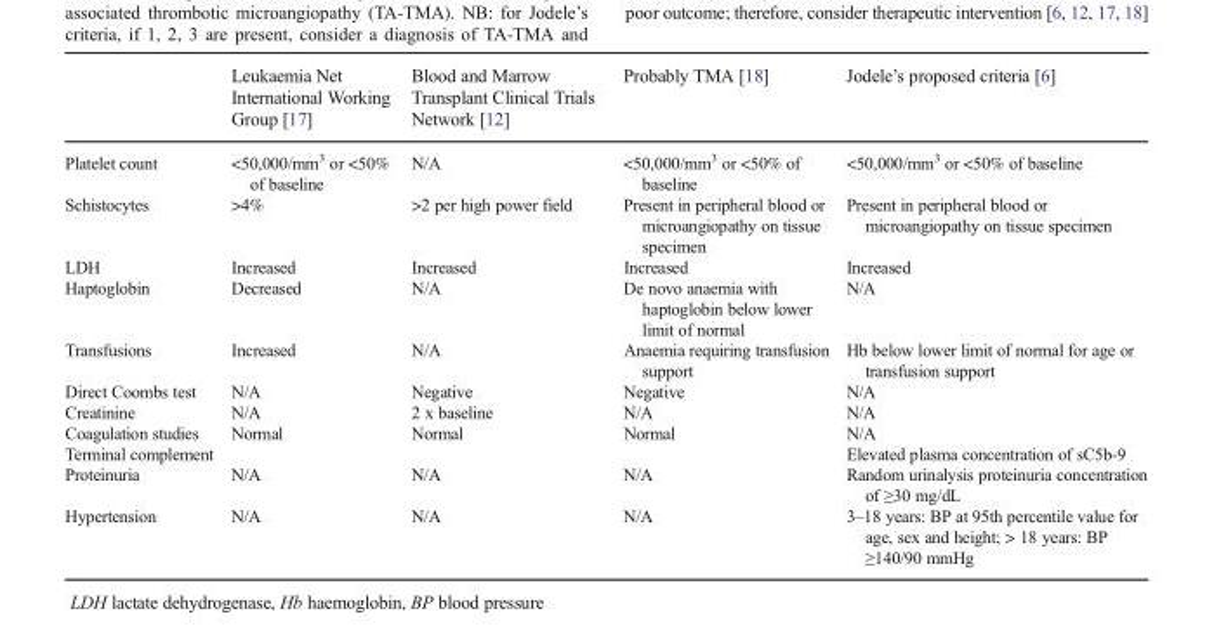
<table><thead><tr><td></td><td>Leukaemia Net International Working Group [17]</td><td>Blood and Marrow Transplant Clinical Trials Network [12]</td><td>Probably TMA [18]</td><td>Jodele’s proposed criteria [6]</td></tr></thead><tbody><tr><td>Platelet count</td><td>&lt;50,000/mm<sup>3</sup> or &lt;50% of baseline</td><td>N/A</td><td>&lt;50,000/mm<sup>3</sup> or &lt;50% of baseline</td><td>&lt;50,000/mm<sup>3</sup> or &lt;50% of baseline</td></tr><tr><td>Schistocytes</td><td>&gt;4%</td><td>&gt;2 per high power field</td><td>Present in peripheral blood or microangiopathy on tissue specimen</td><td>Present in peripheral blood or microangiopathy on tissue specimen</td></tr><tr><td>LDH</td><td>Increased</td><td>Increased</td><td>Increased</td><td>Increased</td></tr><tr><td>Haptoglobin</td><td>Decreased</td><td>N/A</td><td>De novo anaemia with haptoglobin below lower limit of normal</td><td>N/A</td></tr><tr><td>Transfusions</td><td>Increased</td><td>N/A</td><td>Anaemia requiring transfusion support</td><td>Hb below lower limit of normal for age or transfusion support</td></tr><tr><td>Direct Coombs test</td><td>N/A</td><td>Negative</td><td>Negative</td><td>N/A</td></tr><tr><td>Creatinine</td><td>N/A</td><td>2 x baseline</td><td>N/A</td><td>N/A</td></tr><tr><td>Coagulation studies</td><td>Normal</td><td>Normal</td><td>Normal</td><td>N/A</td></tr><tr><td>Terminal complement</td><td></td><td></td><td></td><td>Elevated plasma concentration of sC5b-9</td></tr><tr><td>Proteinuria</td><td>N/A</td><td>N/A</td><td>N/A</td><td>Random urinalysis proteinuria concentration of ≥30 mg/dL</td></tr><tr><td>Hypertension</td><td>N/A</td><td>N/A</td><td>N/A</td><td>3–18 years: BP at 95th percentile value for age, sex and height; &gt; 18 years: BP ≥140/90 mmHg</td></tr></tbody></table>